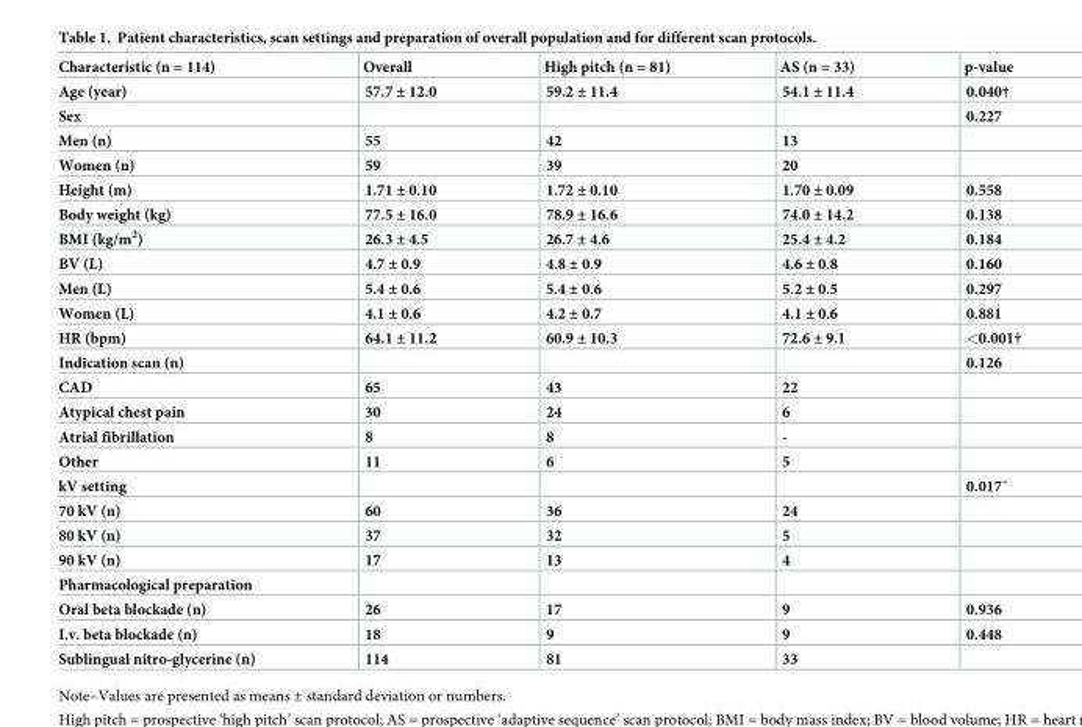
<table><thead><tr><td>Characteristic (n = 114)</td><td>Overall</td><td>High pitch (n = 81)</td><td>AS (n = 33)</td><td>p-value</td></tr></thead><tbody><tr><td>Age (year)</td><td>57.7 ± 12.0</td><td>59.2 ± 11.4</td><td>54.1 ± 11.4</td><td>0.040†</td></tr><tr><td>Sex</td><td></td><td></td><td></td><td>0.227</td></tr><tr><td>Men (n)</td><td>55</td><td>42</td><td>13</td><td></td></tr><tr><td>Women (n)</td><td>59</td><td>39</td><td>20</td><td></td></tr><tr><td>Height (m)</td><td>1.71 ± 0.10</td><td>1.72 ± 0.10</td><td>1.70 ± 0.09</td><td>0.558</td></tr><tr><td>Body weight (kg)</td><td>77.5 ± 16.0</td><td>78.9 ± 16.6</td><td>74.0 ± 14.2</td><td>0.138</td></tr><tr><td>BMI (kg/m<sup>2</sup>)</td><td>26.3 ± 4.5</td><td>26.7 ± 4.6</td><td>25.4 ± 4.2</td><td>0.184</td></tr><tr><td>BV (L)</td><td>4.7 ± 0.9</td><td>4.8 ± 0.9</td><td>4.6 ± 0.8</td><td>0.160</td></tr><tr><td>Men (L)</td><td>5.4 ± 0.6</td><td>5.4 ± 0.6</td><td>5.2 ± 0.5</td><td>0.297</td></tr><tr><td>Women (L)</td><td>4.1 ± 0.6</td><td>4.2 ± 0.7</td><td>4.1 ± 0.6</td><td>0.881</td></tr><tr><td>HR (bpm)</td><td>64.1 ± 11.2</td><td>60.9 ± 10.3</td><td>72.6 ± 9.1</td><td>&lt;0.001†</td></tr><tr><td>Indication scan (n)</td><td></td><td></td><td></td><td>0.126</td></tr><tr><td>CAD</td><td>65</td><td>43</td><td>22</td><td></td></tr><tr><td>Atypical chest pain</td><td>30</td><td>24</td><td>6</td><td></td></tr><tr><td>Atrial fibrillation</td><td>8</td><td>8</td><td>-</td><td></td></tr><tr><td>Other</td><td>11</td><td>6</td><td>5</td><td></td></tr><tr><td>kV setting</td><td></td><td></td><td></td><td>0.017˚</td></tr><tr><td>70 kV (n)</td><td>60</td><td>36</td><td>24</td><td></td></tr><tr><td>80 kV (n)</td><td>37</td><td>32</td><td>5</td><td></td></tr><tr><td>90 kV (n)</td><td>17</td><td>13</td><td>4</td><td></td></tr><tr><td colspan="5">Pharmacological preparation</td></tr><tr><td>Oral beta blockade (n)</td><td>26</td><td>17</td><td>9</td><td>0.936</td></tr><tr><td>I.v. beta blockade (n)</td><td>18</td><td>9</td><td>9</td><td>0.448</td></tr><tr><td>Sublingual nitro-glycerine (n)</td><td>114</td><td>81</td><td>33</td><td></td></tr></tbody></table>